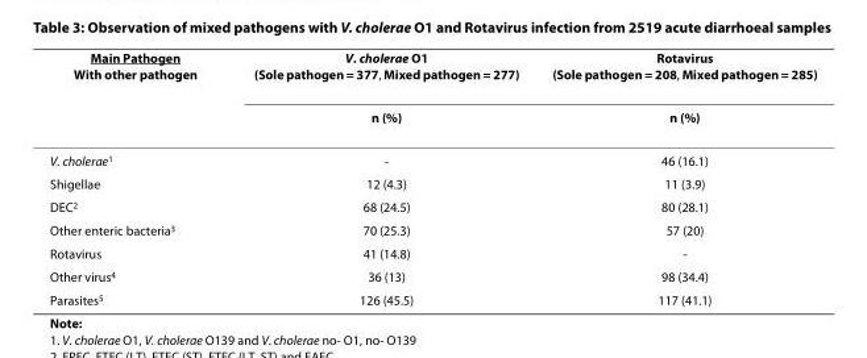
<table><thead><tr><td rowspan="2">Main Pathogen With other pathogen</td><td rowspan="2">V. cholerae O1 (Sole pathogen = 377, Mixed pathogen = 277) n (%)</td><td rowspan="2">Rotavirus (Sole pathogen = 208, Mixed pathogen = 285) n (%)</td></tr><tr></tr></thead><tbody><tr><td>V. cholerae<sup>1</sup></td><td>-</td><td>46 (16.1)</td></tr><tr><td>Shigellae</td><td>12 (4.3)</td><td>11 (3.9)</td></tr><tr><td>DEC<sup>2</sup></td><td>68 (24.5)</td><td>80 (28.1)</td></tr><tr><td>Other enteric bacteria<sup>3</sup></td><td>70 (25.3)</td><td>57 (20)</td></tr><tr><td>Rotavirus</td><td>41 (14.8)</td><td>-</td></tr><tr><td>Other virus<sup>4</sup></td><td>36 (13)</td><td>98 (34.4)</td></tr><tr><td>Parasites<sup>5</sup></td><td>126 (45.5)</td><td>117 (41.1)</td></tr></tbody></table>